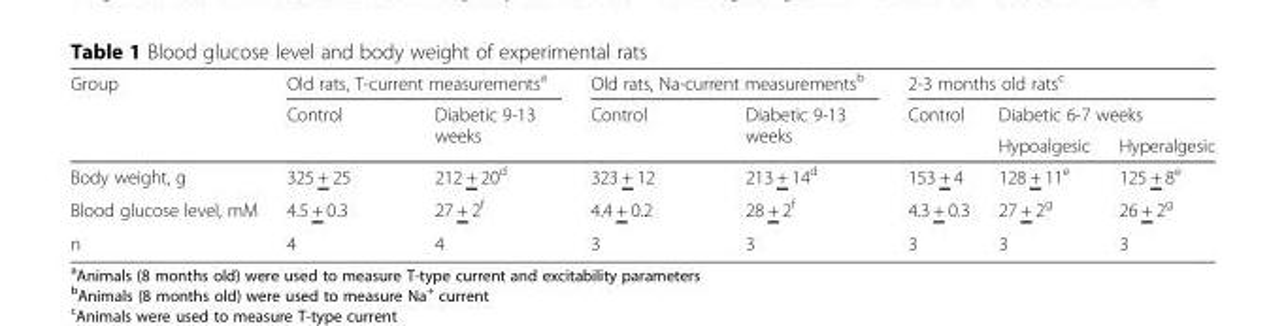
<table><thead><tr><td rowspan="3">Group</td><td colspan="2">Old rats, T-current measurements<sup>a</sup></td><td colspan="2">Old rats, Na-current measurements<sup>b</sup></td><td colspan="3">2-3 months old rats<sup>c</sup></td></tr><tr><td rowspan="2">Control</td><td rowspan="2">Diabetic 9-13 weeks</td><td rowspan="2">Control</td><td rowspan="2">Diabetic 9-13 weeks</td><td rowspan="2">Control</td><td colspan="2">Diabetic 6-7 weeks</td></tr><tr><td>Hypoalgesic</td><td>Hyperalgesic</td></tr></thead><tbody><tr><td>Body weight, g</td><td>325 + 25</td><td>212 + 20<sup>d</sup></td><td>323 + 12</td><td>213 + 14<sup>d</sup></td><td>153 + 4</td><td>128 + 11<sup>e</sup></td><td>125 + 8<sup>e</sup></td></tr><tr><td>Blood glucose level, mM</td><td>4.5 + 0.3</td><td>27 + 2<sup>f</sup></td><td>4.4 + 0.2</td><td>28 + 2<sup>f</sup></td><td>4.3 + 0.3</td><td>27 + 2<sup>g</sup></td><td>26 + 2<sup>g</sup></td></tr><tr><td>n</td><td>4</td><td>4</td><td>3</td><td>3</td><td>3</td><td>3</td><td>3</td></tr></tbody></table>